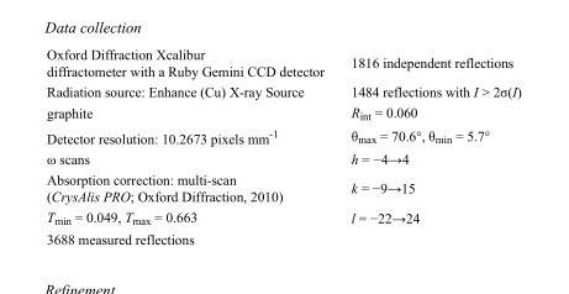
<table><tbody><tr><td>Oxford Diffraction Xcalibur diffractometer with a Ruby Gemini CCD detector</td><td>1816 independent reflections</td></tr><tr><td>Radiation source: Enhance (Cu) X-ray Source</td><td>1484 reflections with I &gt; 2σ(I)</td></tr><tr><td>graphite</td><td>R<sub>int</sub> = 0.060</td></tr><tr><td>Detector resolution: 10.2673 pixels mm<sup>-1</sup></td><td>θ<sub>max</sub> = 70.6°, θ<sub>min</sub> = 5.7°</td></tr><tr><td>ω scans</td><td>h = −4→4</td></tr><tr><td>Absorption correction: multi-scan (CrysAlis PRO; Oxford Diffraction, 2010)</td><td>k = −9→15</td></tr><tr><td>T<sub>min</sub> = 0.049, T<sub>max</sub> = 0.663</td><td>l = −22→24</td></tr><tr><td>3688 measured reflections</td><td></td></tr></tbody></table>